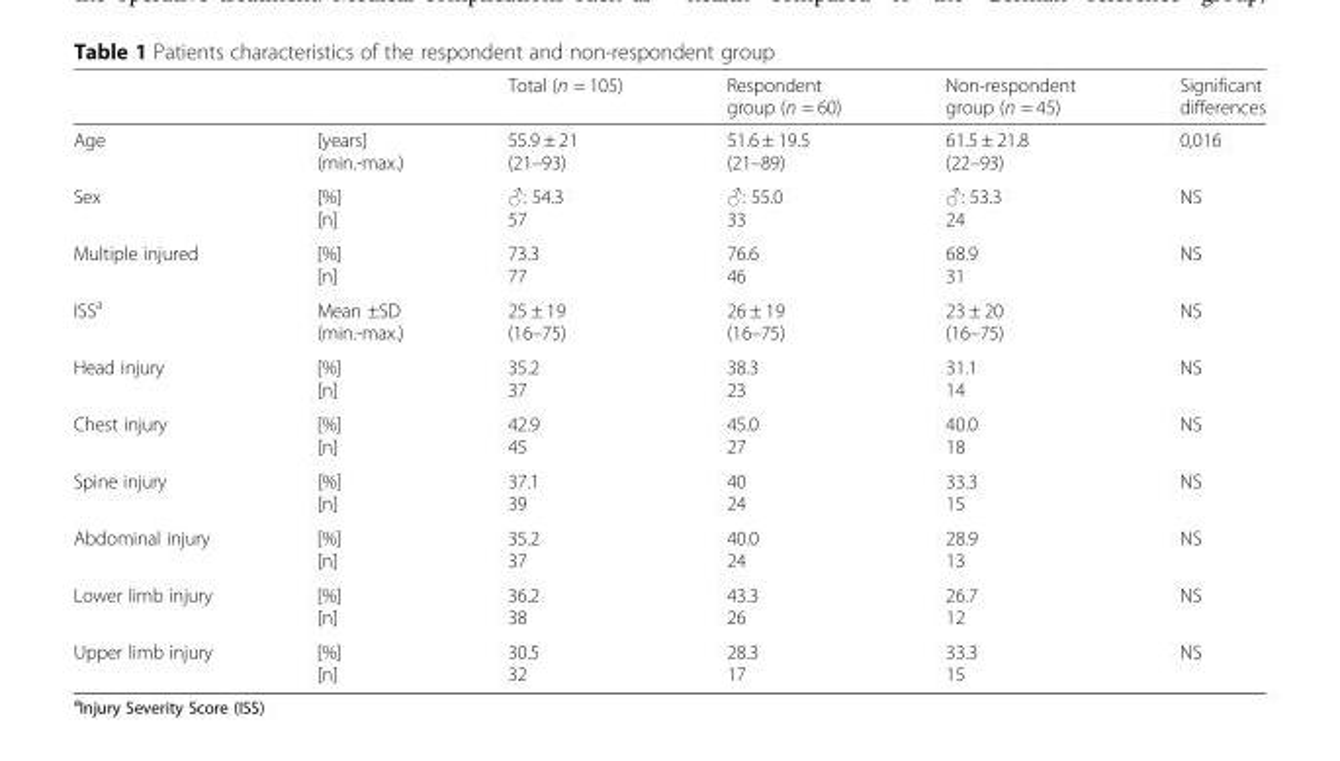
<table><thead><tr><td></td><td></td><td>Total (n = 105)</td><td>Respondent group (n = 60)</td><td>Non-respondent group (n = 45)</td><td>Significant differences</td></tr></thead><tbody><tr><td>Age</td><td>[years] (min.-max.)</td><td>55.9 ± 21 (21–93)</td><td>51.6 ± 19.5 (21–89)</td><td>61.5 ± 21.8 (22–93)</td><td>0,016</td></tr><tr><td>Sex</td><td>[%] [n]</td><td>♂: 54.3 57</td><td>♂: 55.0 33</td><td>♂: 53.3 24</td><td>NS</td></tr><tr><td>Multiple injured</td><td>[%] [n]</td><td>73.3 77</td><td>76.6 46</td><td>68.9 31</td><td>NS</td></tr><tr><td>ISS<sup>a</sup></td><td>Mean ±SD (min.-max.)</td><td>25 ± 19 (16–75)</td><td>26 ± 19 (16–75)</td><td>23 ± 20 (16–75)</td><td>NS</td></tr><tr><td>Head injury</td><td>[%] [n]</td><td>35.2 37</td><td>38.3 23</td><td>31.1 14</td><td>NS</td></tr><tr><td>Chest injury</td><td>[%] [n]</td><td>42.9 45</td><td>45.0 27</td><td>40.0 18</td><td>NS</td></tr><tr><td>Spine injury</td><td>[%] [n]</td><td>37.1 39</td><td>40 24</td><td>33.3 15</td><td>NS</td></tr><tr><td>Abdominal injury</td><td>[%] [n]</td><td>35.2 37</td><td>40.0 24</td><td>28.9 13</td><td>NS</td></tr><tr><td>Lower limb injury</td><td>[%] [n]</td><td>36.2 38</td><td>43.3 26</td><td>26.7 12</td><td>NS</td></tr><tr><td>Upper limb injury</td><td>[%] [n]</td><td>30.5 32</td><td>28.3 17</td><td>33.3 15</td><td>NS</td></tr></tbody></table>